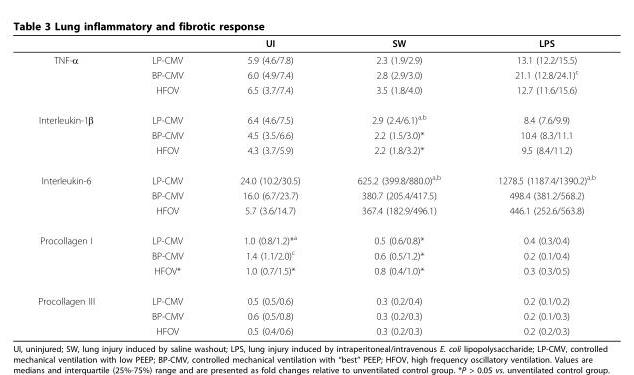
<table><thead><tr><td></td><td></td><td>UI</td><td>SW</td><td>LPS</td></tr></thead><tbody><tr><td rowspan="3">TNF-α</td><td>LP-CMV</td><td>5.9 (4.6/7.8)</td><td>2.3 (1.9/2.9)</td><td>13.1 (12.2/15.5)</td></tr><tr><td>BP-CMV</td><td>6.0 (4.9/7.4)</td><td>2.8 (2.9/3.0)</td><td>21.1 (12.8/24.1)<sup>c</sup></td></tr><tr><td>HFOV</td><td>6.5 (3.7/7.4)</td><td>3.5 (1.8/4.0)</td><td>12.7 (11.6/15.6)</td></tr><tr><td rowspan="3">Interleukin-1β</td><td>LP-CMV</td><td>6.4 (4.6/7.5)</td><td>2.9 (2.4/6.1)<sup>a,b</sup></td><td>8.4 (7.6/9.9)</td></tr><tr><td>BP-CMV</td><td>4.5 (3.5/6.6)</td><td>2.2 (1.5/3.0)*</td><td>10.4 (8.3/11.1</td></tr><tr><td>HFOV</td><td>4.3 (3.7/5.9)</td><td>2.2 (1.8/3.2)*</td><td>9.5 (8.4/11.2)</td></tr><tr><td rowspan="3">Interleukin-6</td><td>LP-CMV</td><td>24.0 (10.2/30.5)</td><td>625.2 (399.8/880.0)<sup>a,b</sup></td><td>1278.5 (1187.4/1390.2)<sup>a,b</sup></td></tr><tr><td>BP-CMV</td><td>16.0 (6.7/23.7)</td><td>380.7 (205.4/417.5)</td><td>498.4 (381.2/568.2)</td></tr><tr><td>HFOV</td><td>5.7 (3.6/14.7)</td><td>367.4 (182.9/496.1)</td><td>446.1 (252.6/563.8)</td></tr><tr><td rowspan="3">Procollagen I</td><td>LP-CMV</td><td>1.0 (0.8/1.2)*<sup>a</sup></td><td>0.5 (0.6/0.8)*</td><td>0.4 (0.3/0.4)</td></tr><tr><td>BP-CMV</td><td>1.4 (1.1/2.0)<sup>c</sup></td><td>0.6 (0.5/1.2)*</td><td>0.2 (0.1/0.4)</td></tr><tr><td>HFOV*</td><td>1.0 (0.7/1.5)*</td><td>0.8 (0.4/1.0)*</td><td>0.3 (0.3/0.5)</td></tr><tr><td rowspan="3">Procollagen III</td><td>LP-CMV</td><td>0.5 (0.5/0.6)</td><td>0.3 (0.2/0.4)</td><td>0.2 (0.1/0.2)</td></tr><tr><td>BP-CMV</td><td>0.6 (0.5/0.8)</td><td>0.3 (0.2/0.3)</td><td>0.2 (0.1/0.3)</td></tr><tr><td>HFOV</td><td>0.5 (0.4/0.6)</td><td>0.3 (0.2/0.3)</td><td>0.2 (0.2/0.3)</td></tr></tbody></table>